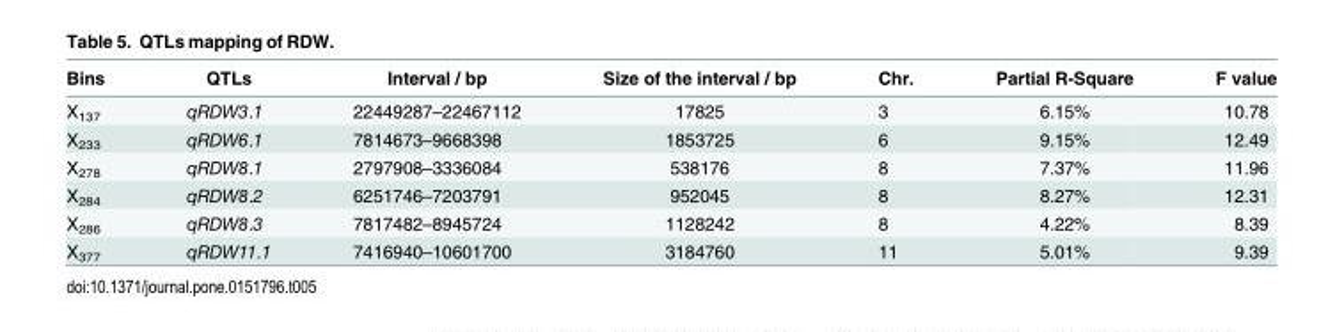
<table><thead><tr><td>Bins</td><td>QTLs</td><td>Interval / bp</td><td>Size of the interval / bp</td><td>Chr.</td><td>Partial R-Square</td><td>F value</td></tr></thead><tbody><tr><td>X<sub>137</sub></td><td>qRDW3.1</td><td>22449287–22467112</td><td>17825</td><td>3</td><td>6.15%</td><td>10.78</td></tr><tr><td>X<sub>233</sub></td><td>qRDW6.1</td><td>7814673–9668398</td><td>1853725</td><td>6</td><td>9.15%</td><td>12.49</td></tr><tr><td>X<sub>278</sub></td><td>qRDW8.1</td><td>2797908–3336084</td><td>538176</td><td>8</td><td>7.37%</td><td>11.96</td></tr><tr><td>X<sub>284</sub></td><td>qRDW8.2</td><td>6251746–7203791</td><td>952045</td><td>8</td><td>8.27%</td><td>12.31</td></tr><tr><td>X<sub>286</sub></td><td>qRDW8.3</td><td>7817482–8945724</td><td>1128242</td><td>8</td><td>4.22%</td><td>8.39</td></tr><tr><td>X<sub>377</sub></td><td>qRDW11.1</td><td>7416940–10601700</td><td>3184760</td><td>11</td><td>5.01%</td><td>9.39</td></tr></tbody></table>